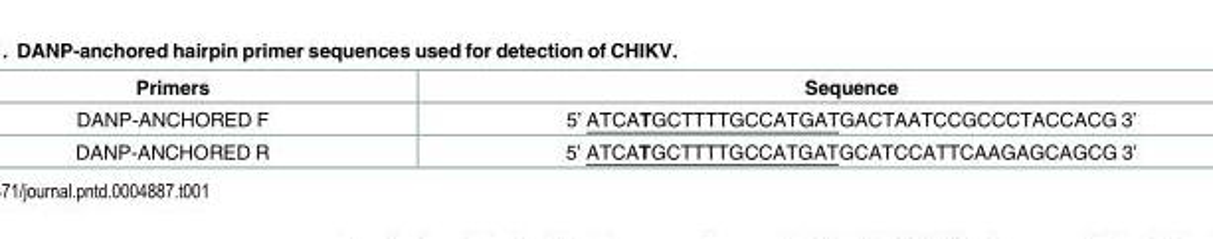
<table><thead><tr><td>Primers</td><td>Sequence</td></tr></thead><tbody><tr><td>DANP-ANCHORED F</td><td>5’ ATCATGCTTTTGCCATGATGACTAATCCGCCCTACCACG 3’</td></tr><tr><td>DANP-ANCHORED R</td><td>5’ ATCATGCTTTTGCCATGATGCATCCATTCAAGAGCAGCG 3’</td></tr></tbody></table>